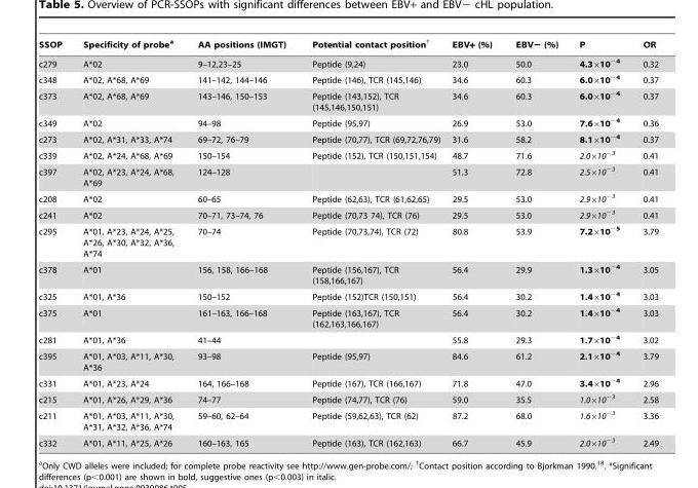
<table><thead><tr><td>SSOP</td><td>Specificity of probe<sup>a</sup></td><td>AA positions (IMGT)</td><td>Potential contact position<sup>†</sup></td><td>EBV+ (%)</td><td>EBV− (%)</td><td>P</td><td>OR</td></tr></thead><tbody><tr><td>c279</td><td>A*02</td><td>9–12,23–25</td><td>Peptide (9,24)</td><td>23.0</td><td>50.0</td><td>4.3×10<sup>−4</sup></td><td>0.32</td></tr><tr><td>c348</td><td>A*02, A*68, A*69</td><td>141–142, 144–146</td><td>Peptide (146), TCR (145,146)</td><td>34.6</td><td>60.3</td><td>6.0×10<sup>−4</sup></td><td>0.37</td></tr><tr><td>c373</td><td>A*02, A*68, A*69</td><td>143–146, 150–153</td><td>Peptide (143,152), TCR (145,146,150,151)</td><td>34.6</td><td>60.3</td><td>6.0×10<sup>−4</sup></td><td>0.37</td></tr><tr><td>c349</td><td>A*02</td><td>94–98</td><td>Peptide (95,97)</td><td>26.9</td><td>53.0</td><td>7.6×10<sup>−4</sup></td><td>0.36</td></tr><tr><td>c273</td><td>A*02, A*31, A*33, A*74</td><td>69–72, 76–79</td><td>Peptide (70,77), TCR (69,72,76,79)</td><td>31.6</td><td>58.2</td><td>8.1×10<sup>−4</sup></td><td>0.37</td></tr><tr><td>c339</td><td>A*02, A*24, A*68, A*69</td><td>150–154</td><td>Peptide (152), TCR (150,151,154)</td><td>48.7</td><td>71.6</td><td>2.0×10<sup>−3</sup></td><td>0.41</td></tr><tr><td>c397</td><td>A*02, A*23, A*24, A*68, A*69</td><td>124–128</td><td></td><td>51.3</td><td>72.8</td><td>2.5×10<sup>−3</sup></td><td>0.41</td></tr><tr><td>c208</td><td>A*02</td><td>60–65</td><td>Peptide (62,63), TCR (61,62,65)</td><td>29.5</td><td>53.0</td><td>2.9×10<sup>−3</sup></td><td>0.41</td></tr><tr><td>c241</td><td>A*02</td><td>70–71, 73–74, 76</td><td>Peptide (70,73 74), TCR (76)</td><td>29.5</td><td>53.0</td><td>2.9×10<sup>−3</sup></td><td>0.41</td></tr><tr><td>c295</td><td>A*01, A*23, A*24, A*25, A*26, A*30, A*32, A*36, A*74</td><td>70–74</td><td>Peptide (70,73,74), TCR (72)</td><td>80.8</td><td>53.9</td><td>7.2×10<sup>−5</sup></td><td>3.79</td></tr><tr><td>c378</td><td>A*01</td><td>156, 158, 166–168</td><td>Peptide (156,167), TCR (158,166,167)</td><td>56.4</td><td>29.9</td><td>1.3×10<sup>−4</sup></td><td>3.05</td></tr><tr><td>c325</td><td>A*01, A*36</td><td>150–152</td><td>Peptide (152)TCR (150,151)</td><td>56.4</td><td>30.2</td><td>1.4×10<sup>−4</sup></td><td>3.03</td></tr><tr><td>c375</td><td>A*01</td><td>161–163, 166–168</td><td>Peptide (163,167), TCR (162,163,166,167)</td><td>56.4</td><td>30.2</td><td>1.4×10<sup>−4</sup></td><td>3.03</td></tr><tr><td>c281</td><td>A*01, A*36</td><td>41–44</td><td></td><td>55.8</td><td>29.3</td><td>1.7×10<sup>−4</sup></td><td>3.02</td></tr><tr><td>c395</td><td>A*01, A*03, A*11, A*30, A*36</td><td>93–98</td><td>Peptide (95,97)</td><td>84.6</td><td>61.2</td><td>2.1×10<sup>−4</sup></td><td>3.79</td></tr><tr><td>c331</td><td>A*01, A*23, A*24</td><td>164, 166–168</td><td>Peptide (167), TCR (166,167)</td><td>71.8</td><td>47.0</td><td>3.4×10<sup>−4</sup></td><td>2.96</td></tr><tr><td>c215</td><td>A*01, A*26, A*29, A*36</td><td>74–77</td><td>Peptide (74,77), TCR (76)</td><td>59.0</td><td>35.5</td><td>1.0×10<sup>−3</sup></td><td>2.58</td></tr><tr><td>c211</td><td>A*01, A*03, A*11, A*30, A*31, A*32, A*36, A*74</td><td>59–60, 62–64</td><td>Peptide (59,62,63), TCR (62)</td><td>87.2</td><td>68.0</td><td>1.6×10<sup>−3</sup></td><td>3.36</td></tr><tr><td>c332</td><td>A*01, A*11, A*25, A*26</td><td>160–163, 165</td><td>Peptide (163), TCR (162,163)</td><td>66.7</td><td>45.9</td><td>2.0×10<sup>−3</sup></td><td>2.49</td></tr></tbody></table>